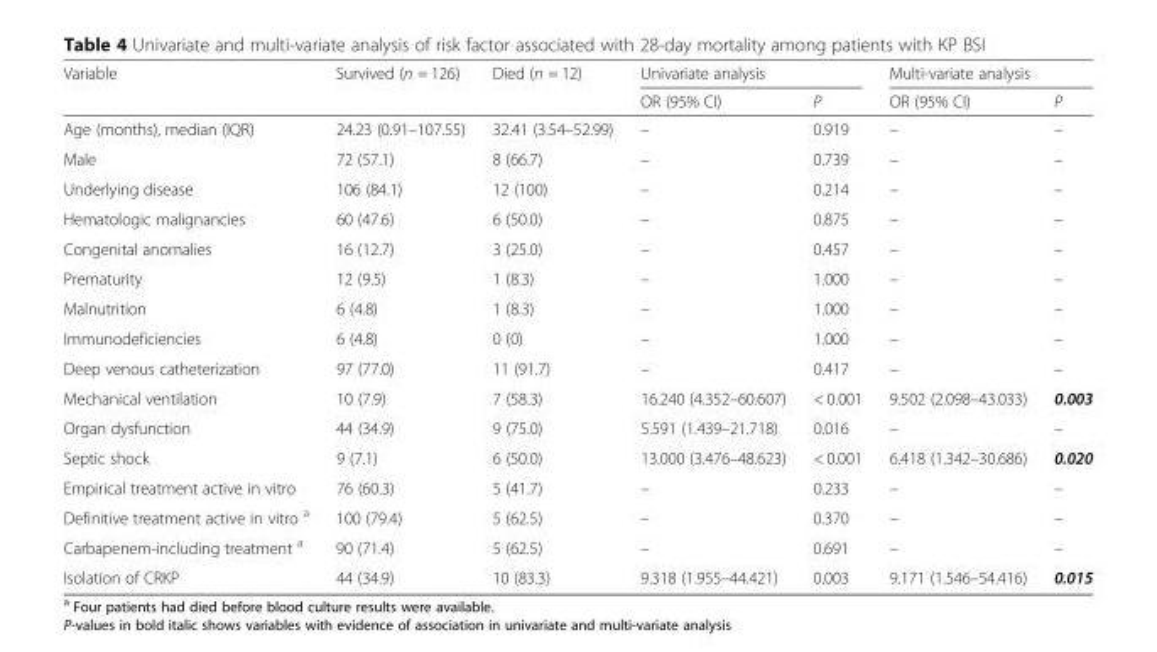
<table><thead><tr><td rowspan="2">Variable</td><td rowspan="2">Survived (n = 126)</td><td rowspan="2">Died (n = 12)</td><td colspan="2">Univariate analysis</td><td colspan="2">Multi-variate analysis</td></tr><tr><td>OR (95% CI)</td><td>P</td><td>OR (95% CI)</td><td>P</td></tr></thead><tbody><tr><td>Age (months), median (IQR)</td><td>24.23 (0.91–107.55)</td><td>32.41 (3.54–52.99)</td><td>–</td><td>0.919</td><td>–</td><td>–</td></tr><tr><td>Male</td><td>72 (57.1)</td><td>8 (66.7)</td><td>–</td><td>0.739</td><td>–</td><td>–</td></tr><tr><td>Underlying disease</td><td>106 (84.1)</td><td>12 (100)</td><td>–</td><td>0.214</td><td>–</td><td>–</td></tr><tr><td>Hematologic malignancies</td><td>60 (47.6)</td><td>6 (50.0)</td><td>–</td><td>0.875</td><td>–</td><td>–</td></tr><tr><td>Congenital anomalies</td><td>16 (12.7)</td><td>3 (25.0)</td><td>–</td><td>0.457</td><td>–</td><td>–</td></tr><tr><td>Prematurity</td><td>12 (9.5)</td><td>1 (8.3)</td><td>–</td><td>1.000</td><td>–</td><td>–</td></tr><tr><td>Malnutrition</td><td>6 (4.8)</td><td>1 (8.3)</td><td>–</td><td>1.000</td><td>–</td><td>–</td></tr><tr><td>Immunodeficiencies</td><td>6 (4.8)</td><td>0 (0)</td><td>–</td><td>1.000</td><td>–</td><td>–</td></tr><tr><td>Deep venous catheterization</td><td>97 (77.0)</td><td>11 (91.7)</td><td>–</td><td>0.417</td><td>–</td><td>–</td></tr><tr><td>Mechanical ventilation</td><td>10 (7.9)</td><td>7 (58.3)</td><td>16.240 (4.352–60.607)</td><td>&lt; 0.001</td><td>9.502 (2.098–43.033)</td><td>0.003</td></tr><tr><td>Organ dysfunction</td><td>44 (34.9)</td><td>9 (75.0)</td><td>5.591 (1.439–21.718)</td><td>0.016</td><td>–</td><td>–</td></tr><tr><td>Septic shock</td><td>9 (7.1)</td><td>6 (50.0)</td><td>13.000 (3.476–48.623)</td><td>&lt; 0.001</td><td>6.418 (1.342–30.686)</td><td>0.020</td></tr><tr><td>Empirical treatment active in vitro</td><td>76 (60.3)</td><td>5 (41.7)</td><td>–</td><td>0.233</td><td>–</td><td>–</td></tr><tr><td>Definitive treatment active in vitro <sup>a</sup></td><td>100 (79.4)</td><td>5 (62.5)</td><td>–</td><td>0.370</td><td>–</td><td>–</td></tr><tr><td>Carbapenem-including treatment <sup>a</sup></td><td>90 (71.4)</td><td>5 (62.5)</td><td>–</td><td>0.691</td><td>–</td><td>–</td></tr><tr><td>Isolation of CRKP</td><td>44 (34.9)</td><td>10 (83.3)</td><td>9.318 (1.955–44.421)</td><td>0.003</td><td>9.171 (1.546–54.416)</td><td>0.015</td></tr></tbody></table>